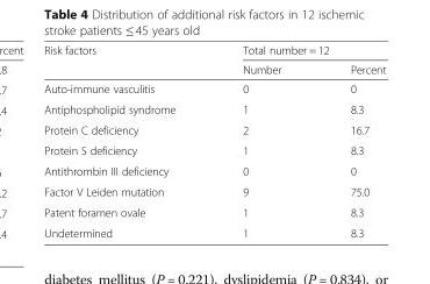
<table><thead><tr><td rowspan="2">Risk factors</td><td colspan="2">Total number = 12</td></tr><tr><td>Number</td><td>Percent</td></tr></thead><tbody><tr><td>Auto-immune vasculitis</td><td>0</td><td>0</td></tr><tr><td>Antiphospholipid syndrome</td><td>1</td><td>8.3</td></tr><tr><td>Protein C deficiency</td><td>2</td><td>16.7</td></tr><tr><td>Protein S deficiency</td><td>1</td><td>8.3</td></tr><tr><td>Antithrombin III deficiency</td><td>0</td><td>0</td></tr><tr><td>Factor V Leiden mutation</td><td>9</td><td>75.0</td></tr><tr><td>Patent foramen ovale</td><td>1</td><td>8.3</td></tr><tr><td>Undetermined</td><td>1</td><td>8.3</td></tr></tbody></table>